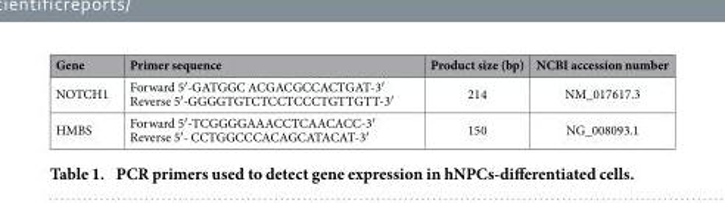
<table><thead><tr><td>Gene</td><td>Primer sequence</td><td>Product size (bp)</td><td>NCBI accession number</td></tr></thead><tbody><tr><td>NOTCH1</td><td>Forward 5′ -GATGGC ACGACGCCACTGAT-3′ Reverse 5′ -GGGGTGTCTCCTCCCTGTTGTT-3′</td><td>214</td><td>NM_017617.3</td></tr><tr><td>HMBS</td><td>Forward 5′ -TCGGGGAAACCTCAACACC-3′ Reverse 5′ - CCTGGCCCACAGCATACAT-3′</td><td>150</td><td>NG_008093.1</td></tr></tbody></table>